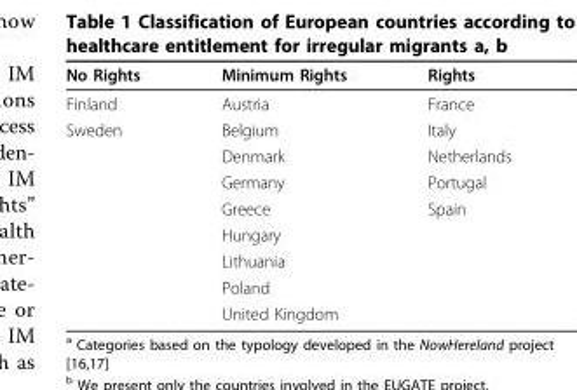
<table><thead><tr><td>No Rights</td><td>Minimum Rights</td><td>Rights</td></tr></thead><tbody><tr><td>Finland</td><td>Austria</td><td>France</td></tr><tr><td rowspan="8">Sweden</td><td>Belgium</td><td>Italy</td></tr><tr><td>Denmark</td><td>Netherlands</td></tr><tr><td>Germany</td><td>Portugal</td></tr><tr><td>Greece</td><td>Spain</td></tr><tr><td>Hungary</td><td></td></tr><tr><td>Lithuania</td><td></td></tr><tr><td>Poland</td><td></td></tr><tr><td>United Kingdom</td><td></td></tr></tbody></table>